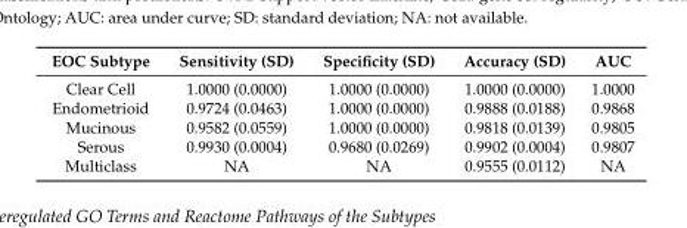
<table><thead><tr><td>EOC Subtype</td><td>Sensitivity (SD)</td><td>Specificity (SD)</td><td>Accuracy (SD)</td><td>AUC</td></tr></thead><tbody><tr><td>Clear Cell</td><td>1.0000 (0.0000)</td><td>1.0000 (0.0000)</td><td>1.0000 (0.0000)</td><td>1.0000</td></tr><tr><td>Endometrioid</td><td>0.9724 (0.0463)</td><td>1.0000 (0.0000)</td><td>0.9888 (0.0188)</td><td>0.9868</td></tr><tr><td>Mucinous</td><td>0.9582 (0.0559)</td><td>1.0000 (0.0000)</td><td>0.9818 (0.0139)</td><td>0.9805</td></tr><tr><td>Serous</td><td>0.9930 (0.0004)</td><td>0.9680 (0.0269)</td><td>0.9902 (0.0004)</td><td>0.9807</td></tr><tr><td>Multiclass</td><td>NA</td><td>NA</td><td>0.9555 (0.0112)</td><td>NA</td></tr></tbody></table>